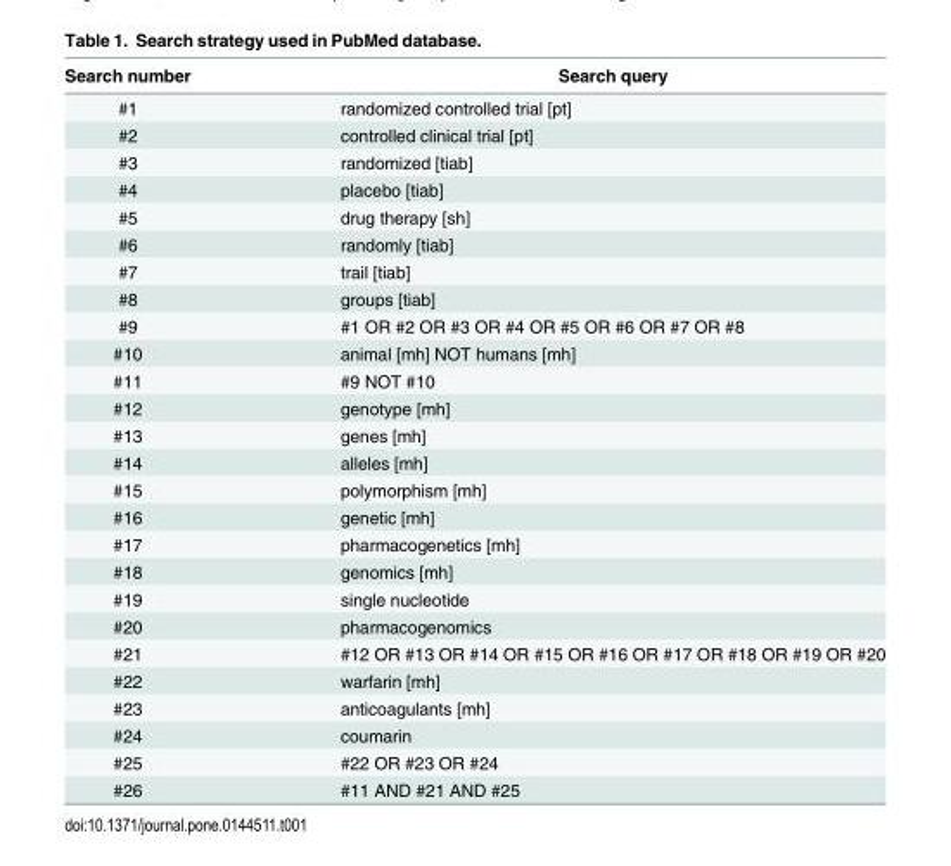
<table><thead><tr><td>Search number</td><td>Search query</td></tr></thead><tbody><tr><td>#1</td><td>randomized controlled trial [pt]</td></tr><tr><td>#2</td><td>controlled clinical trial [pt]</td></tr><tr><td>#3</td><td>randomized [tiab]</td></tr><tr><td>#4</td><td>placebo [tiab]</td></tr><tr><td>#5</td><td>drug therapy [sh]</td></tr><tr><td>#6</td><td>randomly [tiab]</td></tr><tr><td>#7</td><td>trail [tiab]</td></tr><tr><td>#8</td><td>groups [tiab]</td></tr><tr><td>#9</td><td>#1 OR #2 OR #3 OR #4 OR #5 OR #6 OR #7 OR #8</td></tr><tr><td>#10</td><td>animal [mh] NOT humans [mh]</td></tr><tr><td>#11</td><td>#9 NOT #10</td></tr><tr><td>#12</td><td>genotype [mh]</td></tr><tr><td>#13</td><td>genes [mh]</td></tr><tr><td>#14</td><td>alleles [mh]</td></tr><tr><td>#15</td><td>polymorphism [mh]</td></tr><tr><td>#16</td><td>genetic [mh]</td></tr><tr><td>#17</td><td>pharmacogenetics [mh]</td></tr><tr><td>#18</td><td>genomics [mh]</td></tr><tr><td>#19</td><td>single nucleotide</td></tr><tr><td>#20</td><td>pharmacogenomics</td></tr><tr><td>#21</td><td>#12 OR #13 OR #14 OR #15 OR #16 OR #17 OR #18 OR #19 OR #20</td></tr><tr><td>#22</td><td>warfarin [mh]</td></tr><tr><td>#23</td><td>anticoagulants [mh]</td></tr><tr><td>#24</td><td>coumarin</td></tr><tr><td>#25</td><td>#22 OR #23 OR #24</td></tr><tr><td>#26</td><td>#11 AND #21 AND #25</td></tr></tbody></table>